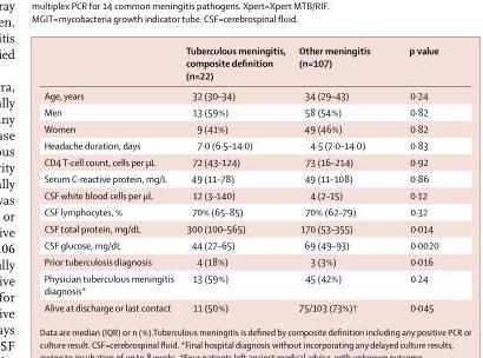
<table><thead><tr><td></td><td>Tuberculous meningitis, composite definition (n=22)</td><td>Other meningitis (n=107)</td><td>p value</td></tr></thead><tbody><tr><td>Age, years</td><td>32 (30–34)</td><td>34 (29–43)</td><td>0·24</td></tr><tr><td>Men</td><td>13 (59%)</td><td>58 (54%)</td><td>0·82</td></tr><tr><td>Women</td><td>9 (41%)</td><td>49 (46%)</td><td>0·82</td></tr><tr><td>Headache duration, days</td><td>7·0 (6·5–14·0)</td><td>4·5 (7·0–14·0)</td><td>0·83</td></tr><tr><td>CD4 T-cell count, cells per µL</td><td>72 (43–124)</td><td>73 (16–214)</td><td>0·92</td></tr><tr><td>Serum C-reactive protein, mg/L</td><td>49 (11–78)</td><td>49 (11–108)</td><td>0·86</td></tr><tr><td>CSF white blood cells per μL</td><td>12 (3–140)</td><td>4 (2–15)</td><td>0·12</td></tr><tr><td>CSF lymphocytes, %</td><td>70% (65–85)</td><td>70% (62–79)</td><td>0·32</td></tr><tr><td>CSF total protein, mg/dL</td><td>300 (100–565)</td><td>170 (53–355)</td><td>0·014</td></tr><tr><td>CSF glucose, mg/dL</td><td>44 (27–65)</td><td>69 (49–93)</td><td>0·0020</td></tr><tr><td>Prior tuberculosis diagnosis</td><td>4 (18%)</td><td>3 (3%)</td><td>0·016</td></tr><tr><td>Physician tuberculous meningitis diagnosis*</td><td>13 (59%)</td><td>45 (42%)</td><td>0·24</td></tr><tr><td>Alive at discharge or last contact</td><td>11 (50%)</td><td>75/103 (73%)†</td><td>0·045</td></tr></tbody></table>